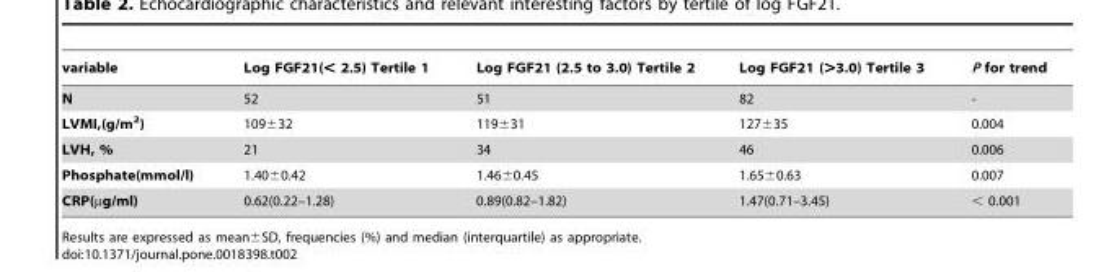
<table><thead><tr><td>variable</td><td>Log FGF21(&lt; 2.5) Tertile 1</td><td>Log FGF21 (2.5 to 3.0) Tertile 2</td><td>Log FGF21 (&gt;3.0) Tertile 3</td><td>P for trend</td></tr></thead><tbody><tr><td>N</td><td>52</td><td>51</td><td>82</td><td>-</td></tr><tr><td>LVMI,(g/m<sup>2</sup>)</td><td>109±32</td><td>119±31</td><td>127±35</td><td>0.004</td></tr><tr><td>LVH, %</td><td>21</td><td>34</td><td>46</td><td>0.006</td></tr><tr><td>Phosphate(mmol/l)</td><td>1.40±0.42</td><td>1.46±0.45</td><td>1.65±0.63</td><td>0.007</td></tr><tr><td>CRP(µg/ml)</td><td>0.62(0.22–1.28)</td><td>0.89(0.82–1.82)</td><td>1.47(0.71–3.45)</td><td>&lt; 0.001</td></tr></tbody></table>